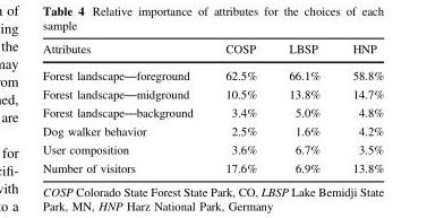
<table><thead><tr><td>Attributes</td><td>COSP</td><td>LBSP</td><td>HNP</td></tr></thead><tbody><tr><td>Forest landscape—foreground</td><td>62.5%</td><td>66.1%</td><td>58.8%</td></tr><tr><td>Forest landscape—midground</td><td>10.5%</td><td>13.8%</td><td>14.7%</td></tr><tr><td>Forest landscape—background</td><td>3.4%</td><td>5.0%</td><td>4.8%</td></tr><tr><td>Dog walker behavior</td><td>2.5%</td><td>1.6%</td><td>4.2%</td></tr><tr><td>User composition</td><td>3.6%</td><td>6.7%</td><td>3.5%</td></tr><tr><td>Number of visitors</td><td>17.6%</td><td>6.9%</td><td>13.8%</td></tr></tbody></table>